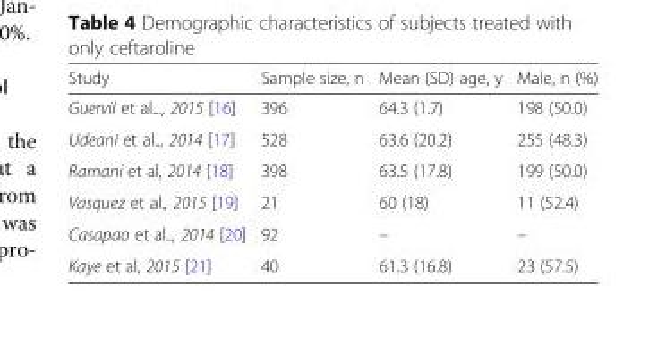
<table><thead><tr><td>Study</td><td>Sample size, n</td><td>Mean (SD) age, y</td><td>Male, n (%)</td></tr></thead><tbody><tr><td>Guervil et al..., 2015 [16]</td><td>396</td><td>64.3 (1.7)</td><td>198 (50.0)</td></tr><tr><td>Udeani et al.., 2014 [17]</td><td>528</td><td>63.6 (20.2)</td><td>255 (48.3)</td></tr><tr><td>Ramani et al, 2014 [18]</td><td>398</td><td>63.5 (17.8)</td><td>199 (50.0)</td></tr><tr><td>Vasquez et al., 2015 [19]</td><td>21</td><td>60 (18)</td><td>11 (52.4)</td></tr><tr><td>Casapao et al.., 2014 [20]</td><td>92</td><td>–</td><td>–</td></tr><tr><td>Kaye et al, 2015 [21]</td><td>40</td><td>61.3 (16.8)</td><td>23 (57.5)</td></tr></tbody></table>